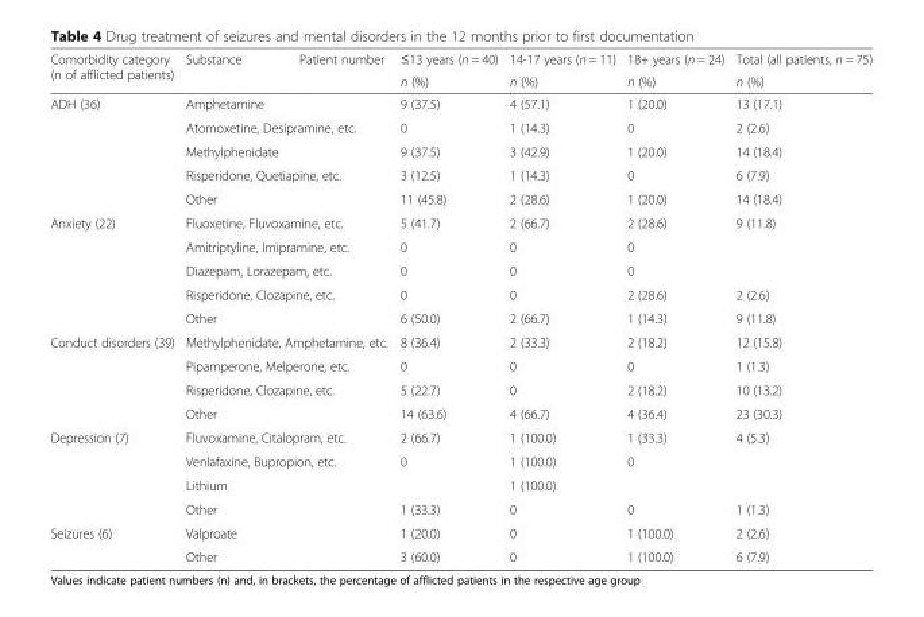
<table><thead><tr><td rowspan="2">Comorbidity category (n of afflicted patients)</td><td rowspan="2">Substance</td><td rowspan="2">Patient number</td><td rowspan="2">≤13 years (n = 40) n (%)</td><td rowspan="2">14-17 years (n = 11) n (%)</td><td rowspan="2">18+ years (n = 24) n (%)</td><td rowspan="2">Total (all patients, n = 75) n (%)</td></tr><tr></tr></thead><tbody><tr><td rowspan="5">ADH (36)</td><td colspan="2">Amphetamine</td><td>9 (37.5)</td><td>4 (57.1)</td><td>1 (20.0)</td><td>13 (17.1)</td></tr><tr><td colspan="2">Atomoxetine, Desipramine, etc.</td><td>0</td><td>1 (14.3)</td><td>0</td><td>2 (2.6)</td></tr><tr><td colspan="2">Methylphenidate</td><td>9 (37.5)</td><td>3 (42.9)</td><td>1 (20.0)</td><td>14 (18.4)</td></tr><tr><td colspan="2">Risperidone, Quetiapine, etc.</td><td>3 (12.5)</td><td>1 (14.3)</td><td>0</td><td>6 (7.9)</td></tr><tr><td colspan="2">Other</td><td>11 (45.8)</td><td>2 (28.6)</td><td>1 (20.0)</td><td>14 (18.4)</td></tr><tr><td rowspan="5">Anxiety (22)</td><td colspan="2">Fluoxetine, Fluvoxamine, etc.</td><td>5 (41.7)</td><td>2 (66.7)</td><td>2 (28.6)</td><td>9 (11.8)</td></tr><tr><td colspan="2">Amitriptyline, Imipramine, etc.</td><td>0</td><td>0</td><td>0</td><td></td></tr><tr><td colspan="2">Diazepam, Lorazepam, etc.</td><td>0</td><td>0</td><td>0</td><td></td></tr><tr><td colspan="2">Risperidone, Clozapine, etc.</td><td>0</td><td>0</td><td>2 (28.6)</td><td>2 (2.6)</td></tr><tr><td colspan="2">Other</td><td>6 (50.0)</td><td>2 (66.7)</td><td>1 (14.3)</td><td>9 (11.8)</td></tr><tr><td rowspan="4">Conduct disorders (39)</td><td colspan="2">Methylphenidate, Amphetamine, etc.</td><td>8 (36.4)</td><td>2 (33.3)</td><td>2 (18.2)</td><td>12 (15.8)</td></tr><tr><td colspan="2">Pipamperone, Melperone, etc.</td><td>0</td><td>0</td><td>0</td><td>1 (1.3)</td></tr><tr><td colspan="2">Risperidone, Clozapine, etc.</td><td>5 (22.7)</td><td>0</td><td>2 (18.2)</td><td>10 (13.2)</td></tr><tr><td colspan="2">Other</td><td>14 (63.6)</td><td>4 (66.7)</td><td>4 (36.4)</td><td>23 (30.3)</td></tr><tr><td rowspan="4">Depression (7)</td><td colspan="2">Fluvoxamine, Citalopram, etc.</td><td>2 (66.7)</td><td>1 (100.0)</td><td>1 (33.3)</td><td>4 (5.3)</td></tr><tr><td colspan="2">Venlafaxine, Bupropion, etc.</td><td>0</td><td>1 (100.0)</td><td>0</td><td></td></tr><tr><td colspan="2">Lithium</td><td></td><td>1 (100.0)</td><td></td><td></td></tr><tr><td colspan="2">Other</td><td>1 (33.3)</td><td>0</td><td>0</td><td>1 (1.3)</td></tr><tr><td rowspan="2">Seizures (6)</td><td colspan="2">Valproate</td><td>1 (20.0)</td><td>0</td><td>1 (100.0)</td><td>2 (2.6)</td></tr><tr><td colspan="2">Other</td><td>3 (60.0)</td><td>0</td><td>1 (100.0)</td><td>6 (7.9)</td></tr></tbody></table>